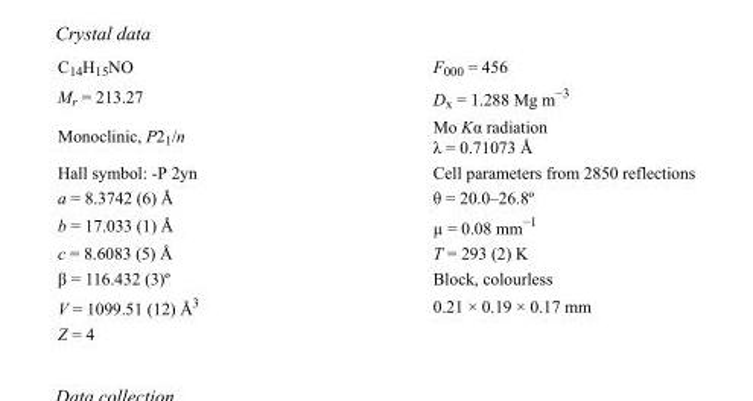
<table><tbody><tr><td>C<sub>14</sub>H<sub>15</sub>NO</td><td>F<sub>000</sub> = 456</td></tr><tr><td>M<sub>r</sub> = 213.27</td><td>D<sub>x</sub> = 1.288 Mg m<sup>−3</sup></td></tr><tr><td>Monoclinic, P2<sub>1</sub>/n</td><td>Mo Kα radiation λ = 0.71073 Å</td></tr><tr><td>Hall symbol: -P 2yn</td><td>Cell parameters from 2850 reflections</td></tr><tr><td>a = 8.3742 (6) Å</td><td>θ = 20.0–26.8º</td></tr><tr><td>b = 17.033 (1) Å</td><td>µ = 0.08 mm<sup>−1</sup></td></tr><tr><td>c = 8.6083 (5) Å</td><td>T = 293 (2) K</td></tr><tr><td>β = 116.432 (3)º</td><td>Block, colourless</td></tr><tr><td>V = 1099.51 (12) Å<sup>3</sup></td><td>0.21 × 0.19 × 0.17 mm</td></tr><tr><td>Z = 4</td><td></td></tr></tbody></table>